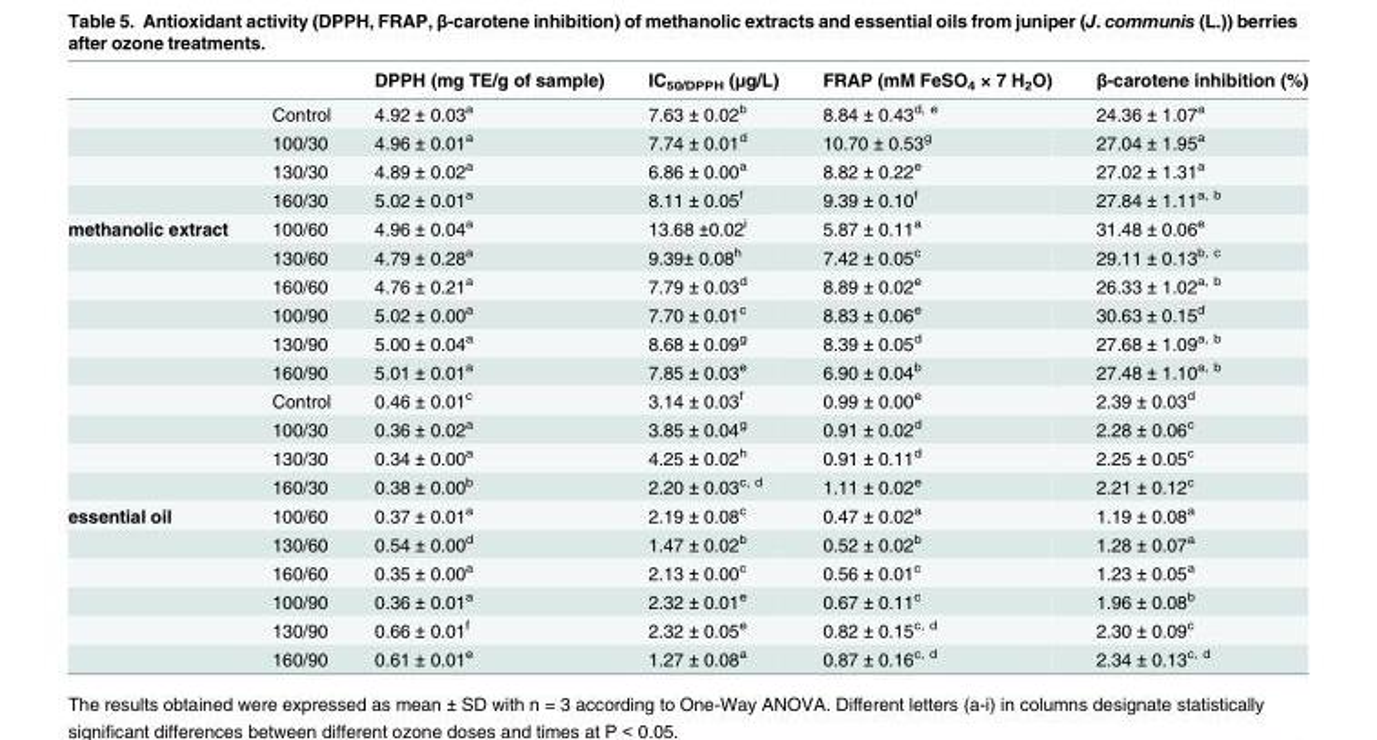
<table><thead><tr><td></td><td></td><td>DPPH (mg TE/g of sample)</td><td>IC<sub>50/DPPH</sub> (μg/L)</td><td>FRAP (mM FeSO<sub>4</sub> × 7 H<sub>2</sub>O)</td><td>β-carotene inhibition (%)</td></tr></thead><tbody><tr><td></td><td>Control</td><td>4.92 ± 0.03<sup>a</sup></td><td>7.63 ± 0.02<sup>b</sup></td><td>8.84 ± 0.43<sup>d, e</sup></td><td>24.36 ± 1.07<sup>a</sup></td></tr><tr><td></td><td>100/30</td><td>4.96 ± 0.01<sup>a</sup></td><td>7.74 ± 0.01<sup>d</sup></td><td>10.70 ± 0.53<sup>g</sup></td><td>27.04 ± 1.95<sup>a</sup></td></tr><tr><td></td><td>130/30</td><td>4.89 ± 0.02<sup>a</sup></td><td>6.86 ± 0.00<sup>a</sup></td><td>8.82 ± 0.22<sup>e</sup></td><td>27.02 ± 1.31<sup>a</sup></td></tr><tr><td></td><td>160/30</td><td>5.02 ± 0.01<sup>a</sup></td><td>8.11 ± 0.05<sup>f</sup></td><td>9.39 ± 0.10<sup>f</sup></td><td>27.84 ± 1.11<sup>a, b</sup></td></tr><tr><td rowspan="10">methanolic extract</td><td>100/60</td><td>4.96 ± 0.04<sup>a</sup></td><td>13.68 ±0.02<sup>i</sup></td><td>5.87 ± 0.11<sup>a</sup></td><td>31.48 ± 0.06<sup>e</sup></td></tr><tr><td>130/60</td><td>4.79 ± 0.28<sup>a</sup></td><td>9.39± 0.08<sup>h</sup></td><td>7.42 ± 0.05<sup>c</sup></td><td>29.11 ± 0.13<sup>b, c</sup></td></tr><tr><td>160/60</td><td>4.76 ± 0.21<sup>a</sup></td><td>7.79 ± 0.03<sup>d</sup></td><td>8.89 ± 0.02<sup>e</sup></td><td>26.33 ± 1.02<sup>a, b</sup></td></tr><tr><td>100/90</td><td>5.02 ± 0.00<sup>a</sup></td><td>7.70 ± 0.01<sup>c</sup></td><td>8.83 ± 0.06<sup>e</sup></td><td>30.63 ± 0.15<sup>d</sup></td></tr><tr><td>130/90</td><td>5.00 ± 0.04<sup>a</sup></td><td>8.68 ± 0.09<sup>g</sup></td><td>8.39 ± 0.05<sup>d</sup></td><td>27.68 ± 1.09<sup>a, b</sup></td></tr><tr><td>160/90</td><td>5.01 ± 0.01<sup>a</sup></td><td>7.85 ± 0.03<sup>e</sup></td><td>6.90 ± 0.04<sup>b</sup></td><td>27.48 ± 1.10<sup>a, b</sup></td></tr><tr><td>Control</td><td>0.46 ± 0.01<sup>c</sup></td><td>3.14 ± 0.03<sup>f</sup></td><td>0.99 ± 0.00<sup>e</sup></td><td>2.39 ± 0.03<sup>d</sup></td></tr><tr><td>100/30</td><td>0.36 ± 0.02<sup>a</sup></td><td>3.85 ± 0.04<sup>g</sup></td><td>0.91 ± 0.02<sup>d</sup></td><td>2.28 ± 0.06<sup>c</sup></td></tr><tr><td>130/30</td><td>0.34 ± 0.00<sup>a</sup></td><td>4.25 ± 0.02<sup>h</sup></td><td>0.91 ± 0.11<sup>d</sup></td><td>2.25 ± 0.05<sup>c</sup></td></tr><tr><td>160/30</td><td>0.38 ± 0.00<sup>b</sup></td><td>2.20 ± 0.03<sup>c, d</sup></td><td>1.11 ± 0.02<sup>e</sup></td><td>2.21 ± 0.12<sup>c</sup></td></tr><tr><td rowspan="6">essential oil</td><td>100/60</td><td>0.37 ± 0.01<sup>a</sup></td><td>2.19 ± 0.08<sup>c</sup></td><td>0.47 ± 0.02<sup>a</sup></td><td>1.19 ± 0.08<sup>a</sup></td></tr><tr><td>130/60</td><td>0.54 ± 0.00<sup>d</sup></td><td>1.47 ± 0.02<sup>b</sup></td><td>0.52 ± 0.02<sup>b</sup></td><td>1.28 ± 0.07<sup>a</sup></td></tr><tr><td>160/60</td><td>0.35 ± 0.00<sup>a</sup></td><td>2.13 ± 0.00<sup>c</sup></td><td>0.56 ± 0.01<sup>c</sup></td><td>1.23 ± 0.05<sup>a</sup></td></tr><tr><td>100/90</td><td>0.36 ± 0.01<sup>a</sup></td><td>2.32 ± 0.01<sup>e</sup></td><td>0.67 ± 0.11<sup>c</sup></td><td>1.96 ± 0.08<sup>b</sup></td></tr><tr><td>130/90</td><td>0.66 ± 0.01<sup>f</sup></td><td>2.32 ± 0.05<sup>e</sup></td><td>0.82 ± 0.15<sup>c, d</sup></td><td>2.30 ± 0.09<sup>c</sup></td></tr><tr><td>160/90</td><td>0.61 ± 0.01<sup>e</sup></td><td>1.27 ± 0.08<sup>a</sup></td><td>0.87 ± 0.16<sup>c, d</sup></td><td>2.34 ± 0.13<sup>c, d</sup></td></tr></tbody></table>